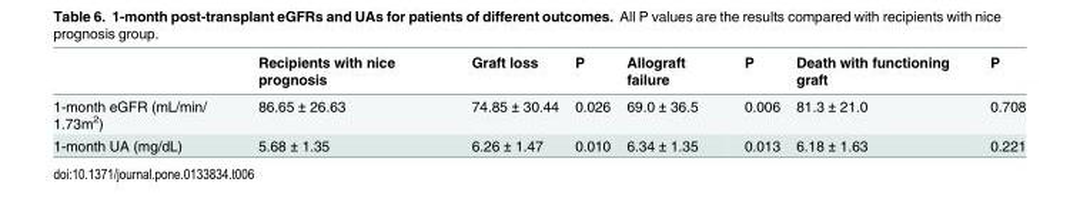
<table><thead><tr><td></td><td>Recipients with nice prognosis</td><td>Graft loss</td><td>P</td><td>Allograft failure</td><td>P</td><td>Death with functioning graft</td><td>P</td></tr></thead><tbody><tr><td>1-month eGFR (mL/min/ 1.73m<sup>2</sup>)</td><td>86.65 ± 26.63</td><td>74.85 ± 30.44</td><td>0.026</td><td>69.0 ± 36.5</td><td>0.006</td><td>81.3 ± 21.0</td><td>0.708</td></tr><tr><td>1-month UA (mg/dL)</td><td>5.68 ± 1.35</td><td>6.26 ± 1.47</td><td>0.010</td><td>6.34 ± 1.35</td><td>0.013</td><td>6.18 ± 1.63</td><td>0.221</td></tr></tbody></table>